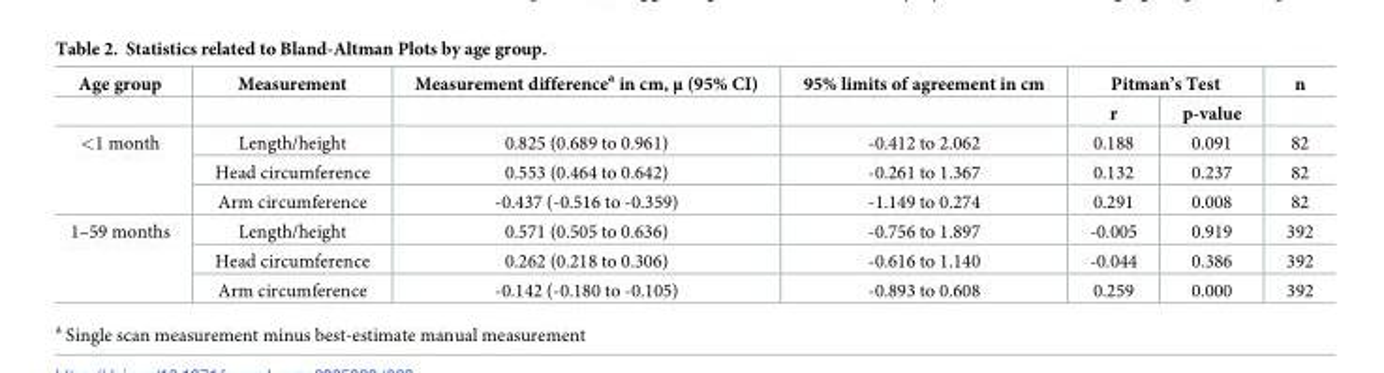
<table><thead><tr><td rowspan="2">Age group</td><td rowspan="2">Measurement</td><td rowspan="2">Measurement difference<sup>a</sup> in cm, μ (95% CI)</td><td rowspan="2">95% limits of agreement in cm</td><td colspan="2">Pitman’s Test</td><td rowspan="2">n</td></tr><tr><td>r</td><td>p-value</td></tr></thead><tbody><tr><td rowspan="3">&lt;1 month</td><td>Length/height</td><td>0.825 (0.689 to 0.961)</td><td>-0.412 to 2.062</td><td>0.188</td><td>0.091</td><td>82</td></tr><tr><td>Head circumference</td><td>0.553 (0.464 to 0.642)</td><td>-0.261 to 1.367</td><td>0.132</td><td>0.237</td><td>82</td></tr><tr><td>Arm circumference</td><td>-0.437 (-0.516 to -0.359)</td><td>-1.149 to 0.274</td><td>0.291</td><td>0.008</td><td>82</td></tr><tr><td rowspan="3">1–59 months</td><td>Length/height</td><td>0.571 (0.505 to 0.636)</td><td>-0.756 to 1.897</td><td>-0.005</td><td>0.919</td><td>392</td></tr><tr><td>Head circumference</td><td>0.262 (0.218 to 0.306)</td><td>-0.616 to 1.140</td><td>-0.044</td><td>0.386</td><td>392</td></tr><tr><td>Arm circumference</td><td>-0.142 (-0.180 to -0.105)</td><td>-0.893 to 0.608</td><td>0.259</td><td>0.000</td><td>392</td></tr></tbody></table>